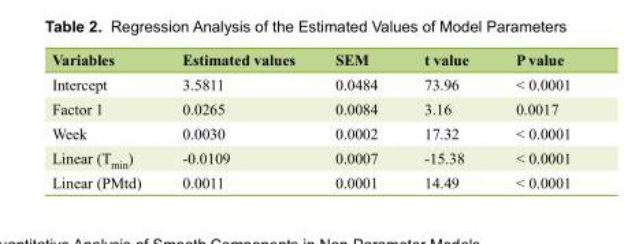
<table><thead><tr><td>Variables</td><td>Estimated values</td><td>SEM</td><td>t value</td><td>P value</td></tr></thead><tbody><tr><td>Intercept</td><td>3.5811</td><td>0.0484</td><td>73.96</td><td>&lt; 0.0001</td></tr><tr><td>Factor 1</td><td>0.0265</td><td>0.0084</td><td>3.16</td><td>0.0017</td></tr><tr><td>Week</td><td>0.0030</td><td>0.0002</td><td>17.32</td><td>&lt; 0.0001</td></tr><tr><td>Linear (T<sub>min</sub>)</td><td>-0.0109</td><td>0.0007</td><td>-15.38</td><td>&lt; 0.0001</td></tr><tr><td>Linear (PMtd)</td><td>0.0011</td><td>0.0001</td><td>14.49</td><td>&lt; 0.0001</td></tr></tbody></table>